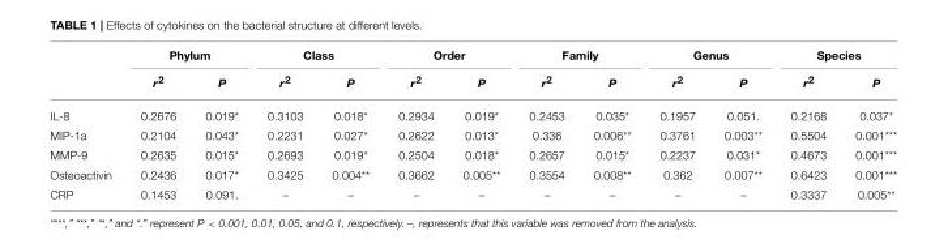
<table><thead><tr><td rowspan="2"></td><td colspan="2">Phylum</td><td colspan="2">Class</td><td colspan="2">Order</td><td colspan="2">Family</td><td colspan="2">Genus</td><td colspan="2">Species</td></tr><tr><td>r<sup>2</sup></td><td>P</td><td>r<sup>2</sup></td><td>P</td><td>r<sup>2</sup></td><td>P</td><td>r<sup>2</sup></td><td>P</td><td>r<sup>2</sup></td><td>P</td><td>r<sup>2</sup></td><td>P</td></tr></thead><tbody><tr><td>IL-8</td><td>0.2676</td><td>0.019*</td><td>0.3103</td><td>0.018*</td><td>0.2934</td><td>0.019*</td><td>0.2453</td><td>0.035*</td><td>0.1957</td><td>0.051.</td><td>0.2168</td><td>0.037*</td></tr><tr><td>MIP-1a</td><td>0.2104</td><td>0.043*</td><td>0.2231</td><td>0.027*</td><td>0.2622</td><td>0.013*</td><td>0.336</td><td>0.006**</td><td>0.3761</td><td>0.003**</td><td>0.5504</td><td>0.001***</td></tr><tr><td>MMP-9</td><td>0.2635</td><td>0.015*</td><td>0.2693</td><td>0.019*</td><td>0.2504</td><td>0.018*</td><td>0.2657</td><td>0.015*</td><td>0.2237</td><td>0.031*</td><td>0.4673</td><td>0.001***</td></tr><tr><td>Osteoactivin</td><td>0.2436</td><td>0.017*</td><td>0.3425</td><td>0.004**</td><td>0.3662</td><td>0.005**</td><td>0.3554</td><td>0.008**</td><td>0.362</td><td>0.007**</td><td>0.6423</td><td>0.001***</td></tr><tr><td>CRP</td><td>0.1453</td><td>0.091.</td><td>–</td><td>–</td><td>–</td><td>–</td><td>–</td><td>–</td><td>–</td><td>–</td><td>0.3337</td><td>0.005**</td></tr></tbody></table>